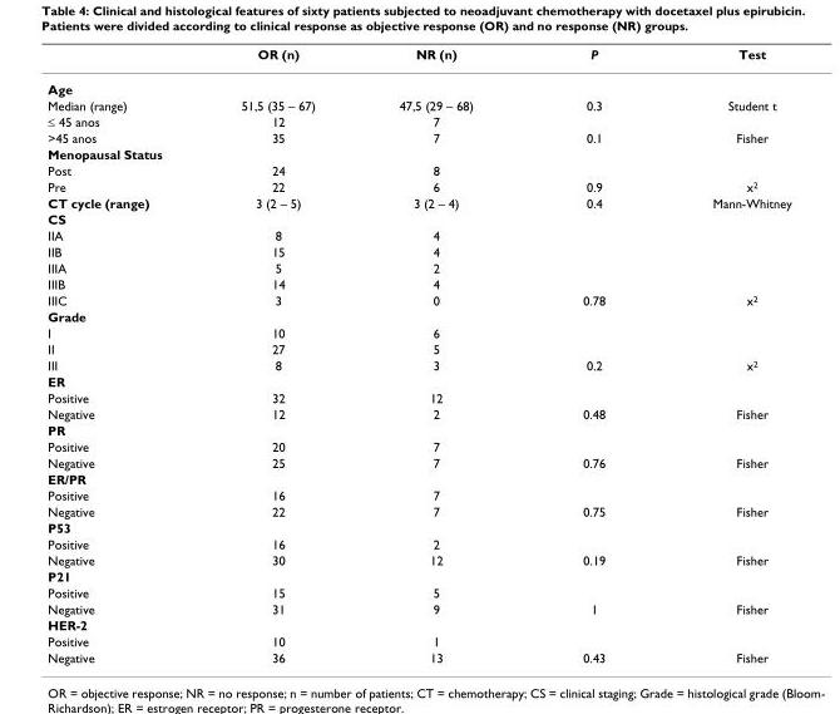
<table><thead><tr><td></td><td>OR (n)</td><td>NR (n)</td><td>P</td><td>Test</td></tr></thead><tbody><tr><td colspan="5">Age</td></tr><tr><td>Median (range)</td><td>51,5 (35 – 67)</td><td>47,5 (29 – 68)</td><td>0.3</td><td>Student t</td></tr><tr><td>≤ 45 anos</td><td>12</td><td>7</td><td></td><td></td></tr><tr><td>&gt;45 anos</td><td>35</td><td>7</td><td>0.1</td><td>Fisher</td></tr><tr><td colspan="5">Menopausal Status</td></tr><tr><td>Post</td><td>24</td><td>8</td><td></td><td></td></tr><tr><td>Pre</td><td>22</td><td>6</td><td>0.9</td><td>x2</td></tr><tr><td>CT cycle (range)</td><td>3 (2 – 5)</td><td>3 (2 – 4)</td><td>0.4</td><td>Mann-Whitney</td></tr><tr><td colspan="5">CS</td></tr><tr><td>IIA</td><td>8</td><td>4</td><td></td><td></td></tr><tr><td>IIB</td><td>15</td><td>4</td><td></td><td></td></tr><tr><td>IIIA</td><td>5</td><td>2</td><td></td><td></td></tr><tr><td>IIIB</td><td>14</td><td>4</td><td></td><td></td></tr><tr><td>IIIC</td><td>3</td><td>0</td><td>0.78</td><td>x2</td></tr><tr><td colspan="5">Grade</td></tr><tr><td>I</td><td>10</td><td>6</td><td></td><td></td></tr><tr><td>II</td><td>27</td><td>5</td><td></td><td></td></tr><tr><td>III</td><td>8</td><td>3</td><td>0.2</td><td>x2</td></tr><tr><td colspan="5">ER</td></tr><tr><td>Positive</td><td>32</td><td>12</td><td></td><td></td></tr><tr><td>Negative</td><td>12</td><td>2</td><td>0.48</td><td>Fisher</td></tr><tr><td colspan="5">PR</td></tr><tr><td>Positive</td><td>20</td><td>7</td><td></td><td></td></tr><tr><td>Negative</td><td>25</td><td>7</td><td>0.76</td><td>Fisher</td></tr><tr><td colspan="5">ER/PR</td></tr><tr><td>Positive</td><td>16</td><td>7</td><td></td><td></td></tr><tr><td>Negative</td><td>22</td><td>7</td><td>0.75</td><td>Fisher</td></tr><tr><td colspan="5">P53</td></tr><tr><td>Positive</td><td>16</td><td>2</td><td></td><td></td></tr><tr><td>Negative</td><td>30</td><td>12</td><td>0.19</td><td>Fisher</td></tr><tr><td colspan="5">P21</td></tr><tr><td>Positive</td><td>15</td><td>5</td><td></td><td></td></tr><tr><td>Negative</td><td>31</td><td>9</td><td>1</td><td>Fisher</td></tr><tr><td colspan="5">HER-2</td></tr><tr><td>Positive</td><td>10</td><td>1</td><td></td><td></td></tr><tr><td>Negative</td><td>36</td><td>13</td><td>0.43</td><td>Fisher</td></tr></tbody></table>